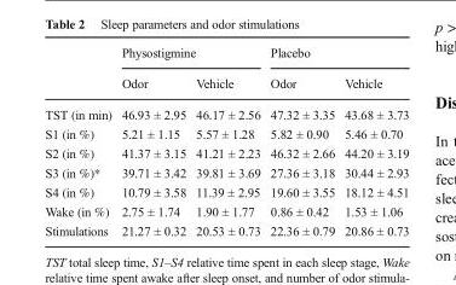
<table><thead><tr><td rowspan="2"></td><td colspan="2">Physostigmine</td><td colspan="2">Placebo</td></tr><tr><td>Odor</td><td>Vehicle</td><td>Odor</td><td>Vehicle</td></tr></thead><tbody><tr><td>TST (in min)</td><td>46.93 ± 2.95</td><td>46.17 ± 2.56</td><td>47.32 ± 3.35</td><td>43.68 ± 3.73</td></tr><tr><td>S1 (in %)</td><td>5.21 ± 1.15</td><td>5.57 ± 1.28</td><td>5.82 ± 0.90</td><td>5.46 ± 0.70</td></tr><tr><td>S2 (in %)</td><td>41.37 ± 3.15</td><td>41.21 ± 2.23</td><td>46.32 ± 2.66</td><td>44.20 ± 3.19</td></tr><tr><td>S3 (in %)*</td><td>39.71 ± 3.42</td><td>39.81 ± 3.69</td><td>27.36 ± 3.18</td><td>30.44 ± 2.93</td></tr><tr><td>S4 (in %)</td><td>10.79 ± 3.58</td><td>11.39 ± 2.95</td><td>19.60 ± 3.55</td><td>18.12 ± 4.51</td></tr><tr><td>Wake (in %)</td><td>2.75 ± 1.74</td><td>1.90 ± 1.77</td><td>0.86 ± 0.42</td><td>1.53 ± 1.06</td></tr><tr><td>Stimulations</td><td>21.27 ± 0.32</td><td>20.53 ± 0.73</td><td>22.36 ± 0.79</td><td>20.86 ± 0.73</td></tr></tbody></table>